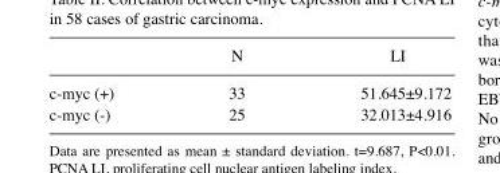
<table><thead><tr><td></td><td>N</td><td>LI</td></tr></thead><tbody><tr><td>c-myc (+)</td><td>33</td><td>51.645±9.172</td></tr><tr><td>c-myc (-)</td><td>25</td><td>32.013±4.916</td></tr></tbody></table>